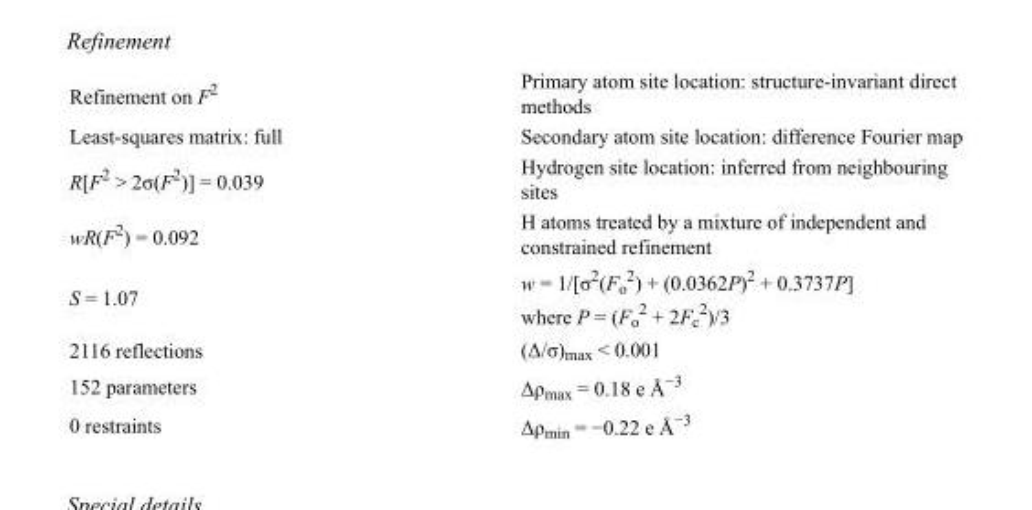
<table><tbody><tr><td>Refinement on F<sup>2</sup></td><td>Primary atom site location: structure-invariant direct methods</td></tr><tr><td>Least-squares matrix: full</td><td>Secondary atom site location: difference Fourier map</td></tr><tr><td>R[F<sup>2</sup> &gt; 2σ(F<sup>2</sup>)] = 0.039</td><td>Hydrogen site location: inferred from neighbouring sites</td></tr><tr><td>wR(F<sup>2</sup>) = 0.092</td><td>H atoms treated by a mixture of independent and constrained refinement</td></tr><tr><td>S = 1.07</td><td>w = 1/[σ<sup>2</sup>(F<sub>o</sub> <sup>2</sup>) + (0.0362P)<sup>2</sup> + 0.3737P] where P = (F<sub>o</sub> <sup>2</sup> + 2F<sub>c</sub> <sup>2</sup>)/3</td></tr><tr><td>2116 reflections</td><td>(Δ/σ)<sub>max</sub> &lt; 0.001</td></tr><tr><td>152 parameters</td><td>Δρ<sub>max</sub> = 0.18 e Å<sup>−3</sup></td></tr><tr><td>0 restraints</td><td>Δρ<sub>min</sub> = −0.22 e Å<sup>−3</sup></td></tr></tbody></table>